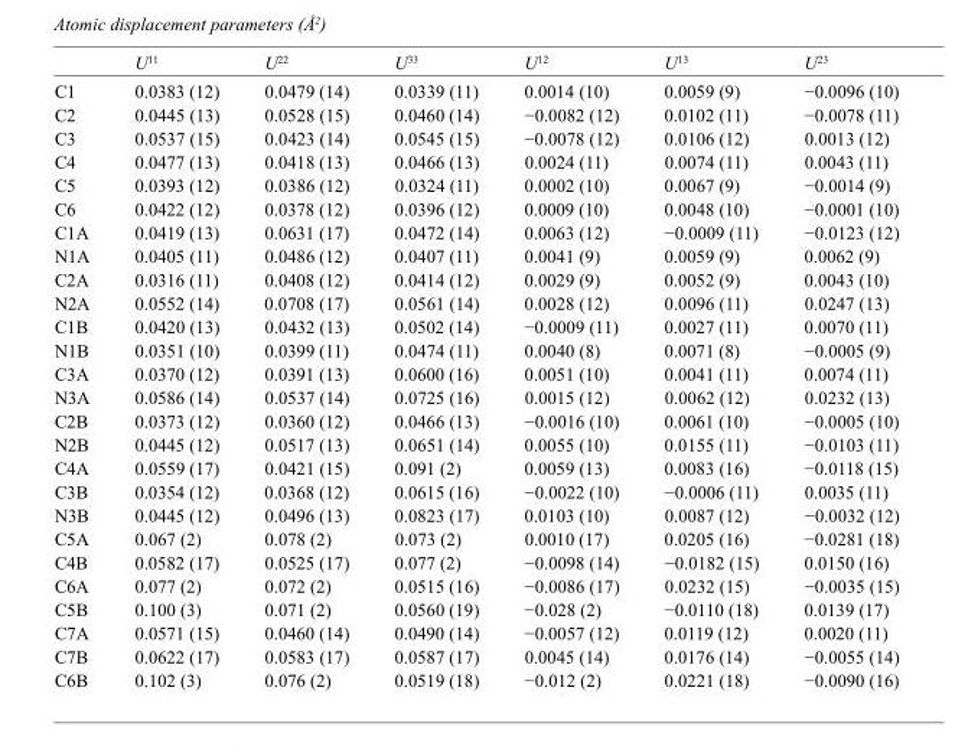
<table><thead><tr><td></td><td>U<sup>11</sup></td><td>U<sup>22</sup></td><td>U<sup>33</sup></td><td>U<sup>12</sup></td><td>U<sup>13</sup></td><td>U<sup>23</sup></td></tr></thead><tbody><tr><td>C1</td><td>0.0383 (12)</td><td>0.0479 (14)</td><td>0.0339 (11)</td><td>0.0014 (10)</td><td>0.0059 (9)</td><td>−0.0096 (10)</td></tr><tr><td>C2</td><td>0.0445 (13)</td><td>0.0528 (15)</td><td>0.0460 (14)</td><td>−0.0082 (12)</td><td>0.0102 (11)</td><td>−0.0078 (11)</td></tr><tr><td>C3</td><td>0.0537 (15)</td><td>0.0423 (14)</td><td>0.0545 (15)</td><td>−0.0078 (12)</td><td>0.0106 (12)</td><td>0.0013 (12)</td></tr><tr><td>C4</td><td>0.0477 (13)</td><td>0.0418 (13)</td><td>0.0466 (13)</td><td>0.0024 (11)</td><td>0.0074 (11)</td><td>0.0043 (11)</td></tr><tr><td>C5</td><td>0.0393 (12)</td><td>0.0386 (12)</td><td>0.0324 (11)</td><td>0.0002 (10)</td><td>0.0067 (9)</td><td>−0.0014 (9)</td></tr><tr><td>C6</td><td>0.0422 (12)</td><td>0.0378 (12)</td><td>0.0396 (12)</td><td>0.0009 (10)</td><td>0.0048 (10)</td><td>−0.0001 (10)</td></tr><tr><td>C1A</td><td>0.0419 (13)</td><td>0.0631 (17)</td><td>0.0472 (14)</td><td>0.0063 (12)</td><td>−0.0009 (11)</td><td>−0.0123 (12)</td></tr><tr><td>N1A</td><td>0.0405 (11)</td><td>0.0486 (12)</td><td>0.0407 (11)</td><td>0.0041 (9)</td><td>0.0059 (9)</td><td>0.0062 (9)</td></tr><tr><td>C2A</td><td>0.0316 (11)</td><td>0.0408 (12)</td><td>0.0414 (12)</td><td>0.0029 (9)</td><td>0.0052 (9)</td><td>0.0043 (10)</td></tr><tr><td>N2A</td><td>0.0552 (14)</td><td>0.0708 (17)</td><td>0.0561 (14)</td><td>0.0028 (12)</td><td>0.0096 (11)</td><td>0.0247 (13)</td></tr><tr><td>C1B</td><td>0.0420 (13)</td><td>0.0432 (13)</td><td>0.0502 (14)</td><td>−0.0009 (11)</td><td>0.0027 (11)</td><td>0.0070 (11)</td></tr><tr><td>N1B</td><td>0.0351 (10)</td><td>0.0399 (11)</td><td>0.0474 (11)</td><td>0.0040 (8)</td><td>0.0071 (8)</td><td>−0.0005 (9)</td></tr><tr><td>C3A</td><td>0.0370 (12)</td><td>0.0391 (13)</td><td>0.0600 (16)</td><td>0.0051 (10)</td><td>0.0041 (11)</td><td>0.0074 (11)</td></tr><tr><td>N3A</td><td>0.0586 (14)</td><td>0.0537 (14)</td><td>0.0725 (16)</td><td>0.0015 (12)</td><td>0.0062 (12)</td><td>0.0232 (13)</td></tr><tr><td>C2B</td><td>0.0373 (12)</td><td>0.0360 (12)</td><td>0.0466 (13)</td><td>−0.0016 (10)</td><td>0.0061 (10)</td><td>−0.0005 (10)</td></tr><tr><td>N2B</td><td>0.0445 (12)</td><td>0.0517 (13)</td><td>0.0651 (14)</td><td>0.0055 (10)</td><td>0.0155 (11)</td><td>−0.0103 (11)</td></tr><tr><td>C4A</td><td>0.0559 (17)</td><td>0.0421 (15)</td><td>0.091 (2)</td><td>0.0059 (13)</td><td>0.0083 (16)</td><td>−0.0118 (15)</td></tr><tr><td>C3B</td><td>0.0354 (12)</td><td>0.0368 (12)</td><td>0.0615 (16)</td><td>−0.0022 (10)</td><td>−0.0006 (11)</td><td>0.0035 (11)</td></tr><tr><td>N3B</td><td>0.0445 (12)</td><td>0.0496 (13)</td><td>0.0823 (17)</td><td>0.0103 (10)</td><td>0.0087 (12)</td><td>−0.0032 (12)</td></tr><tr><td>C5A</td><td>0.067 (2)</td><td>0.078 (2)</td><td>0.073 (2)</td><td>0.0010 (17)</td><td>0.0205 (16)</td><td>−0.0281 (18)</td></tr><tr><td>C4B</td><td>0.0582 (17)</td><td>0.0525 (17)</td><td>0.077 (2)</td><td>−0.0098 (14)</td><td>−0.0182 (15)</td><td>0.0150 (16)</td></tr><tr><td>C6A</td><td>0.077 (2)</td><td>0.072 (2)</td><td>0.0515 (16)</td><td>−0.0086 (17)</td><td>0.0232 (15)</td><td>−0.0035 (15)</td></tr><tr><td>C5B</td><td>0.100 (3)</td><td>0.071 (2)</td><td>0.0560 (19)</td><td>−0.028 (2)</td><td>−0.0110 (18)</td><td>0.0139 (17)</td></tr><tr><td>C7A</td><td>0.0571 (15)</td><td>0.0460 (14)</td><td>0.0490 (14)</td><td>−0.0057 (12)</td><td>0.0119 (12)</td><td>0.0020 (11)</td></tr><tr><td>C7B</td><td>0.0622 (17)</td><td>0.0583 (17)</td><td>0.0587 (17)</td><td>0.0045 (14)</td><td>0.0176 (14)</td><td>−0.0055 (14)</td></tr><tr><td>C6B</td><td>0.102 (3)</td><td>0.076 (2)</td><td>0.0519 (18)</td><td>−0.012 (2)</td><td>0.0221 (18)</td><td>−0.0090 (16)</td></tr></tbody></table>